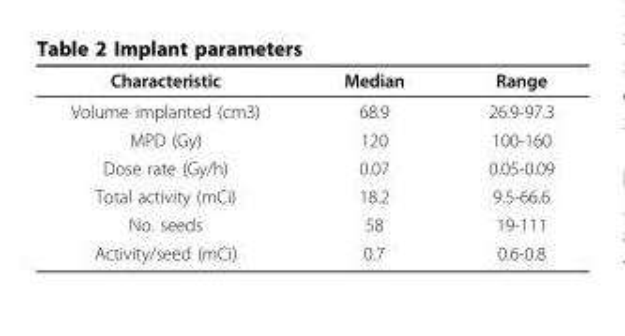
<table><thead><tr><td>Characteristic</td><td>Median</td><td>Range</td></tr></thead><tbody><tr><td>Volume implanted (cm3)</td><td>68.9</td><td>26.9-97.3</td></tr><tr><td>MPD (Gy)</td><td>120</td><td>100-160</td></tr><tr><td>Dose rate (Gy/h)</td><td>0.07</td><td>0.05-0.09</td></tr><tr><td>Total activity (mCi)</td><td>18.2</td><td>9.5-66.6</td></tr><tr><td>No. seeds</td><td>58</td><td>19-111</td></tr><tr><td>Activity/seed (mCi)</td><td>0.7</td><td>0.6-0.8</td></tr></tbody></table>